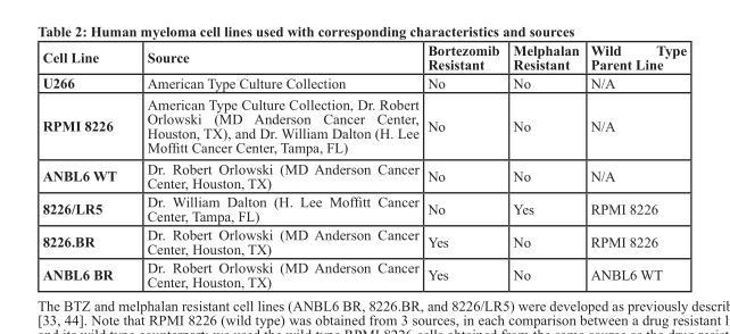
<table><thead><tr><td>Cell Line</td><td>Source</td><td>Bortezomib Resistant</td><td>Melphalan Resistant</td><td>Wild Type Parent Line</td></tr></thead><tbody><tr><td>U266</td><td>American Type Culture Collection</td><td>No</td><td>No</td><td>N/A</td></tr><tr><td>RPMI 8226</td><td>American Type Culture Collection, Dr. Robert Orlowski (MD Anderson Cancer Center, Houston, TX), and Dr. William Dalton (H. Lee Moffitt Cancer Center, Tampa, FL)</td><td>No</td><td>No</td><td>N/A</td></tr><tr><td>ANBL6 WT</td><td>Dr. Robert Orlowski (MD Anderson Cancer Center, Houston, TX)</td><td>No</td><td>No</td><td>N/A</td></tr><tr><td>8226/LR5</td><td>Dr. William Dalton (H. Lee Moffitt Cancer Center, Tampa, FL)</td><td>No</td><td>Yes</td><td>RPMI 8226</td></tr><tr><td>8226.BR</td><td>Dr. Robert Orlowski (MD Anderson Cancer Center, Houston, TX)</td><td>Yes</td><td>No</td><td>RPMI 8226</td></tr><tr><td>ANBL6 BR</td><td>Dr. Robert Orlowski (MD Anderson Cancer Center, Houston, TX)</td><td>Yes</td><td>No</td><td>ANBL6 WT</td></tr></tbody></table>